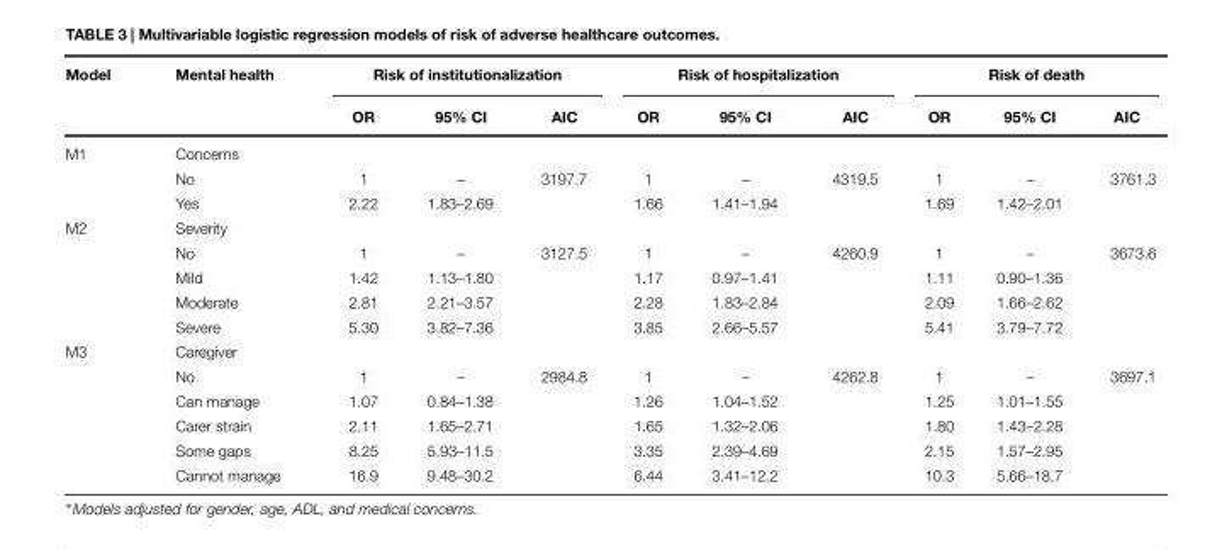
<table><thead><tr><td rowspan="2">Model</td><td rowspan="2">Mental health</td><td colspan="3">Risk of institutionalization</td><td colspan="3">Risk of hospitalization</td><td colspan="3">Risk of death</td></tr><tr><td>OR</td><td>95% CI</td><td>AIC</td><td>OR</td><td>95% CI</td><td>AIC</td><td>OR</td><td>95% CI</td><td>AIC</td></tr></thead><tbody><tr><td rowspan="3">M1</td><td>Concerns</td><td></td><td></td><td></td><td></td><td></td><td></td><td></td><td></td><td></td></tr><tr><td>No</td><td>1</td><td>–</td><td>3197.7</td><td>1</td><td>–</td><td>4319.5</td><td>1</td><td>–</td><td>3761.3</td></tr><tr><td>Yes</td><td>2.22</td><td>1.83–2.69</td><td></td><td>1.66</td><td>1.41–1.94</td><td></td><td>1.69</td><td>1.42–2.01</td><td></td></tr><tr><td rowspan="5">M2</td><td>Severity</td><td></td><td></td><td></td><td></td><td></td><td></td><td></td><td></td><td></td></tr><tr><td>No</td><td>1</td><td>–</td><td>3127.5</td><td>1</td><td>–</td><td>4260.9</td><td>1</td><td>–</td><td>3673.6</td></tr><tr><td>Mild</td><td>1.42</td><td>1.13–1.80</td><td></td><td>1.17</td><td>0.97–1.41</td><td></td><td>1.11</td><td>0.90–1.36</td><td></td></tr><tr><td>Moderate</td><td>2.81</td><td>2.21–3.57</td><td></td><td>2.28</td><td>1.83–2.84</td><td></td><td>2.09</td><td>1.66–2.62</td><td></td></tr><tr><td>Severe</td><td>5.30</td><td>3.82–7.36</td><td></td><td>3.85</td><td>2.66–5.57</td><td></td><td>5.41</td><td>3.79–7.72</td><td></td></tr><tr><td rowspan="6">M3</td><td>Caregiver</td><td></td><td></td><td></td><td></td><td></td><td></td><td></td><td></td><td></td></tr><tr><td>No</td><td>1</td><td>–</td><td>2984.8</td><td>1</td><td>–</td><td>4262.8</td><td>1</td><td>–</td><td>3697.1</td></tr><tr><td>Can manage</td><td>1.07</td><td>0.84–1.38</td><td></td><td>1.26</td><td>1.04–1.52</td><td></td><td>1.25</td><td>1.01–1.55</td><td></td></tr><tr><td>Carer strain</td><td>2.11</td><td>1.65–2.71</td><td></td><td>1.65</td><td>1.32–2.06</td><td></td><td>1.80</td><td>1.43–2.28</td><td></td></tr><tr><td>Some gaps</td><td>8.25</td><td>5.93–11.5</td><td></td><td>3.35</td><td>2.39–4.69</td><td></td><td>2.15</td><td>1.57–2.95</td><td></td></tr><tr><td>Cannot manage</td><td>16.9</td><td>9.48–30.2</td><td></td><td>6.44</td><td>3.41–12.2</td><td></td><td>10.3</td><td>5.66–18.7</td><td></td></tr></tbody></table>